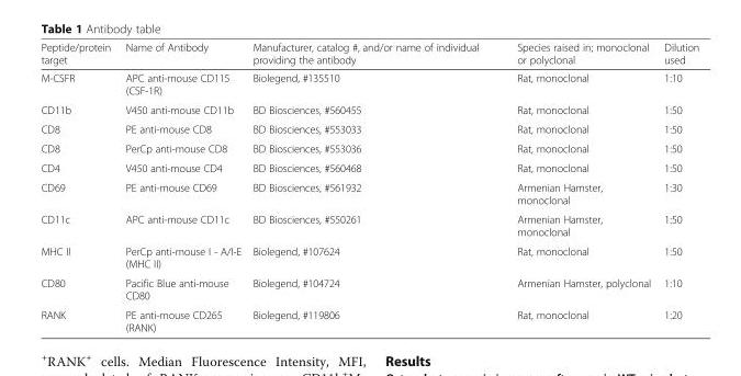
<table><thead><tr><td>Peptide/protein target</td><td>Name of Antibody</td><td>Manufacturer, catalog #, and/or name of individual providing the antibody</td><td>Species raised in; monoclonal or polyclonal</td><td>Dilution used</td></tr></thead><tbody><tr><td>M-CSFR</td><td>APC anti-mouse CD115 (CSF-1R)</td><td>Biolegend, #135510</td><td>Rat, monoclonal</td><td>1:10</td></tr><tr><td>CD11b</td><td>V450 anti-mouse CD11b</td><td>BD Biosciences, #560455</td><td>Rat, monoclonal</td><td>1:50</td></tr><tr><td>CD8</td><td>PE anti-mouse CD8</td><td>BD Biosciences, #553033</td><td>Rat, monoclonal</td><td>1:50</td></tr><tr><td>CD8</td><td>PerCp anti-mouse CD8</td><td>BD Biosciences, #553036</td><td>Rat, monoclonal</td><td>1:50</td></tr><tr><td>CD4</td><td>V450 anti-mouse CD4</td><td>BD Biosciences, #560468</td><td>Rat, monoclonal</td><td>1:50</td></tr><tr><td>CD69</td><td>PE anti-mouse CD69</td><td>BD Biosciences, #561932</td><td>Armenian Hamster, monoclonal</td><td>1:30</td></tr><tr><td>CD11c</td><td>APC anti-mouse CD11c</td><td>BD Biosciences, #550261</td><td>Armenian Hamster, monoclonal</td><td>1:50</td></tr><tr><td>MHC II</td><td>PerCp anti-mouse I - A/I-E (MHC II)</td><td>Biolegend, #107624</td><td>Rat, monoclonal</td><td>1:50</td></tr><tr><td>CD80</td><td>Pacific Blue anti-mouse CD80</td><td>Biolegend, #104724</td><td>Armenian Hamster, polyclonal</td><td>1:10</td></tr><tr><td>RANK</td><td>PE anti-mouse CD265 (RANK)</td><td>Biolegend, #119806</td><td>Rat, monoclonal</td><td>1:20</td></tr></tbody></table>